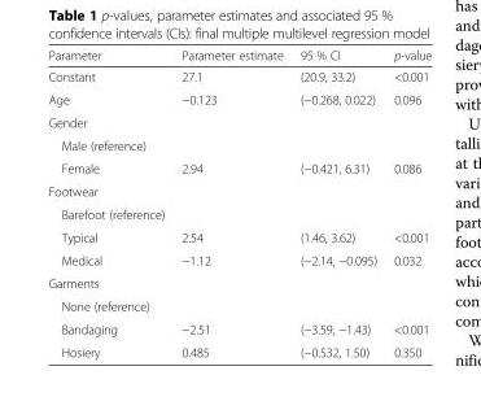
<table><thead><tr><td>Parameter</td><td>Parameter estimate</td><td>95 % CI</td><td>p-value</td></tr></thead><tbody><tr><td>Constant</td><td>27.1</td><td>(20.9, 33.2)</td><td>&lt;0.001</td></tr><tr><td>Age</td><td>−0.123</td><td>(−0.268, 0.022)</td><td>0.096</td></tr><tr><td colspan="4">Gender</td></tr><tr><td colspan="4">Male (reference)</td></tr><tr><td>Female</td><td>2.94</td><td>(−0.421, 6.31)</td><td>0.086</td></tr><tr><td colspan="4">Footwear</td></tr><tr><td colspan="4">Barefoot (reference)</td></tr><tr><td>Typical</td><td>2.54</td><td>(1.46, 3.62)</td><td>&lt;0.001</td></tr><tr><td>Medical</td><td>−1.12</td><td>(−2.14, −0.095)</td><td>0.032</td></tr><tr><td colspan="4">Garments</td></tr><tr><td colspan="4">None (reference)</td></tr><tr><td>Bandaging</td><td>−2.51</td><td>(−3.59, −1.43)</td><td>&lt;0.001</td></tr><tr><td>Hosiery</td><td>0.485</td><td>(−0.532, 1.50)</td><td>0.350</td></tr></tbody></table>